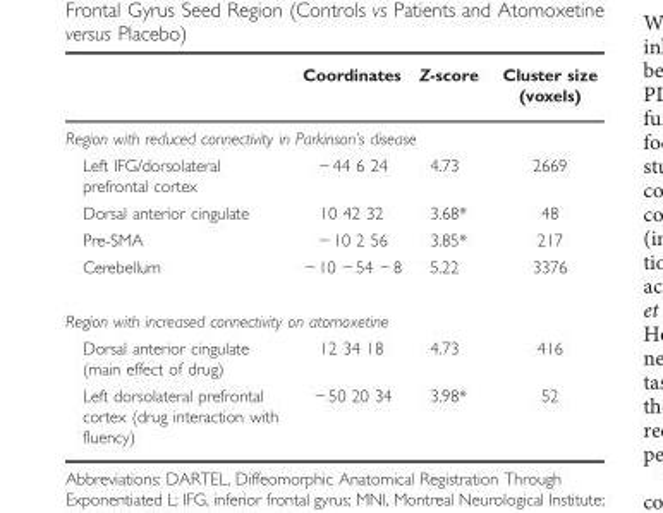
<table><thead><tr><td></td><td>Coordinates</td><td>Z-score</td><td>Cluster size (voxels)</td></tr></thead><tbody><tr><td colspan="4">Region with reduced connectivity in Parkinson’s disease</td></tr><tr><td>Left IFG/dorsolateral prefrontal cortex</td><td>− 44 6 24</td><td>4.73</td><td>2669</td></tr><tr><td>Dorsal anterior cingulate</td><td>10 42 32</td><td>3.68*</td><td>48</td></tr><tr><td>Pre-SMA</td><td>− 10 2 56</td><td>3.85*</td><td>217</td></tr><tr><td>Cerebellum</td><td>− 10 − 54 − 8</td><td>5.22</td><td>3376</td></tr><tr><td colspan="4">Region with increased connectivity on atomoxetine</td></tr><tr><td>Dorsal anterior cingulate (main effect of drug)</td><td>12 34 18</td><td>4.73</td><td>416</td></tr><tr><td>Left dorsolateral prefrontal cortex (drug interaction with fluency)</td><td>− 50 20 34</td><td>3.98*</td><td>52</td></tr></tbody></table>